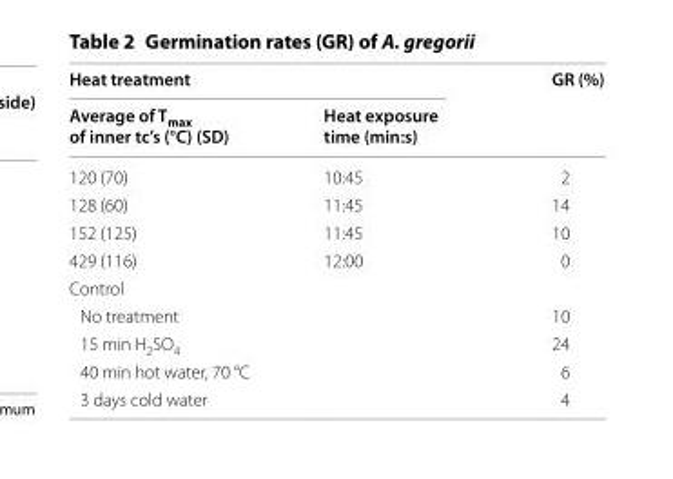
<table><thead><tr><td colspan="2">Heat treatment</td><td rowspan="2">GR (%)</td></tr><tr><td>Average of T<sub>max</sub> of inner tc’s (°C) (SD)</td><td>Heat exposure time (min:s)</td></tr></thead><tbody><tr><td>120 (70)</td><td>10:45</td><td>2</td></tr><tr><td>128 (60)</td><td>11:45</td><td>14</td></tr><tr><td>152 (125)</td><td>11:45</td><td>10</td></tr><tr><td>429 (116)</td><td>12:00</td><td>0</td></tr><tr><td colspan="3">Control</td></tr><tr><td colspan="2">No treatment</td><td>10</td></tr><tr><td colspan="2">15 min H<sub>2</sub>SO<sub>4</sub></td><td>24</td></tr><tr><td colspan="2">40 min hot water, 70 °C</td><td>6</td></tr><tr><td colspan="2">3 days cold water</td><td>4</td></tr></tbody></table>